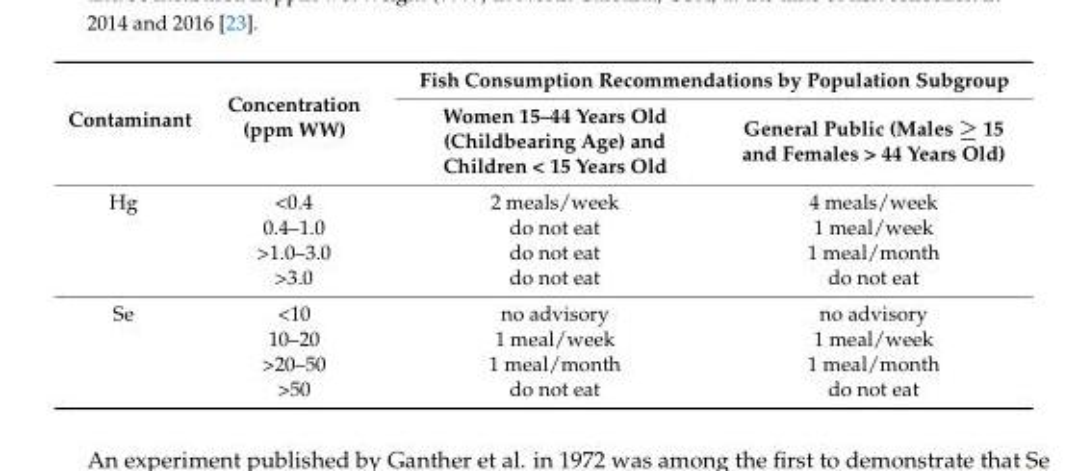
<table><thead><tr><td rowspan="2">Contaminant</td><td rowspan="2">Concentration (ppm WW)</td><td colspan="2">Fish Consumption Recommendations by Population Subgroup</td></tr><tr><td>Women 15–44 Years Old (Childbearing Age) and Children &lt; 15 Years Old</td><td>General Public (Males ≥ 15 and Females &gt; 44 Years Old)</td></tr></thead><tbody><tr><td rowspan="4">Hg</td><td>&lt;0.4</td><td>2 meals/week</td><td>4 meals/week</td></tr><tr><td>0.4–1.0</td><td>do not eat</td><td>1 meal/week</td></tr><tr><td>&gt;1.0–3.0</td><td>do not eat</td><td>1 meal/month</td></tr><tr><td>&gt;3.0</td><td>do not eat</td><td>do not eat</td></tr><tr><td rowspan="4">Se</td><td>&lt;10</td><td>no advisory</td><td>no advisory</td></tr><tr><td>10–20</td><td>1 meal/week</td><td>1 meal/week</td></tr><tr><td>&gt;20–50</td><td>1 meal/month</td><td>1 meal/month</td></tr><tr><td>&gt;50</td><td>do not eat</td><td>do not eat</td></tr></tbody></table>